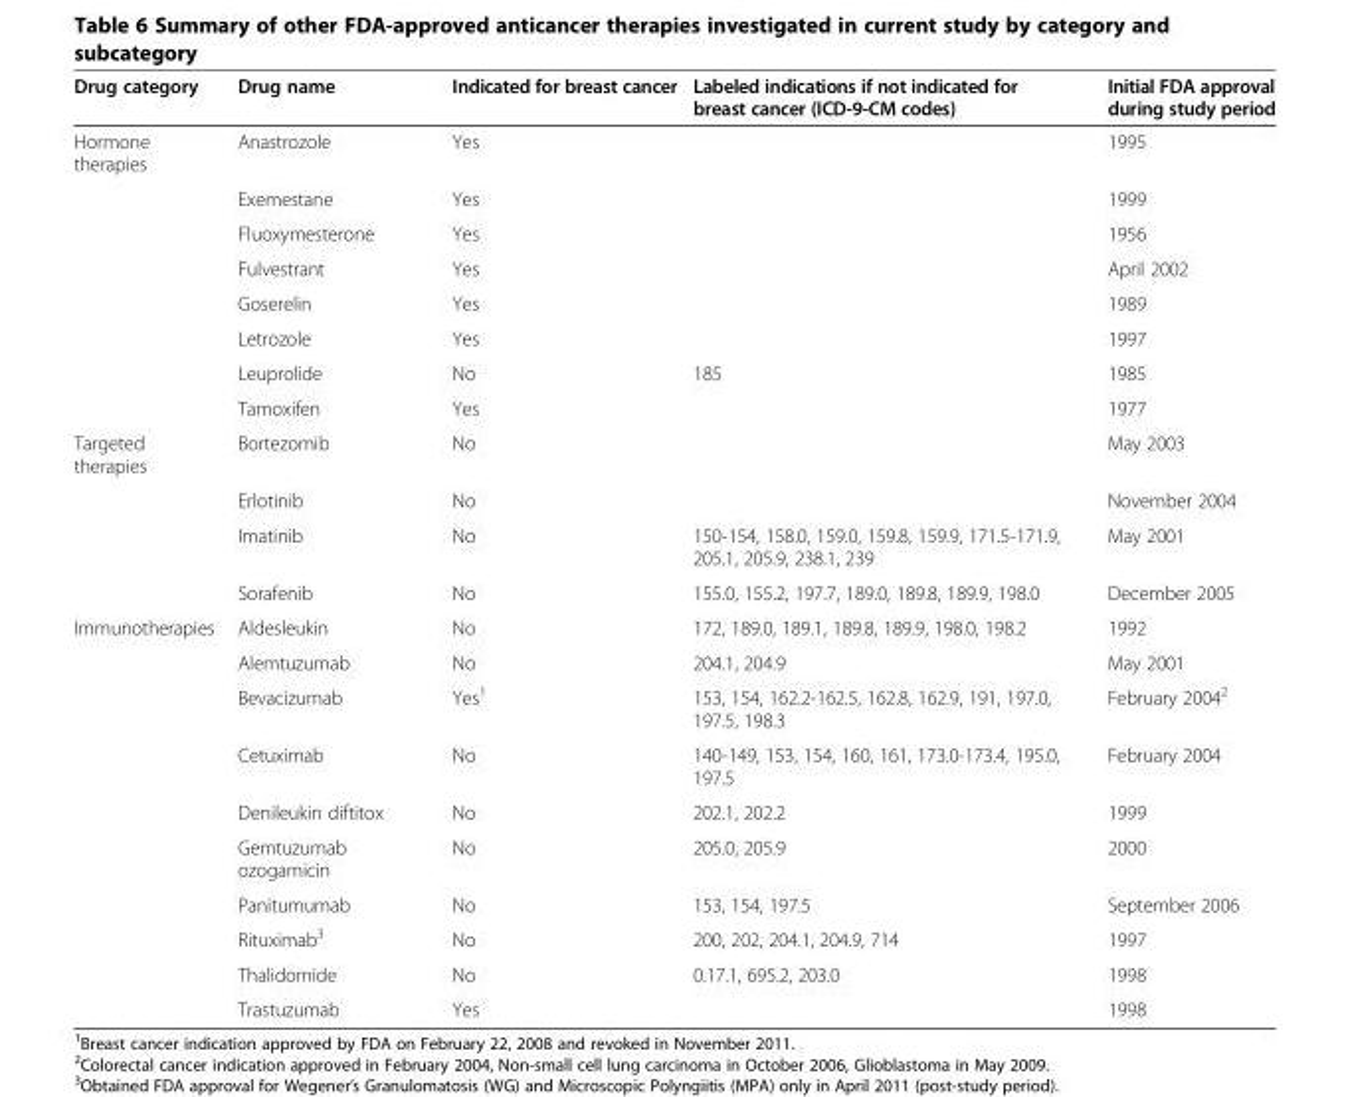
<table><thead><tr><td>Drug category</td><td>Drug name</td><td>Indicated for breast cancer</td><td>Labeled indications if not indicated for breast cancer (ICD-9-CM codes)</td><td>Initial FDA approval during study period</td></tr></thead><tbody><tr><td rowspan="8">Hormone therapies</td><td>Anastrozole</td><td>Yes</td><td></td><td>1995</td></tr><tr><td>Exemestane</td><td>Yes</td><td></td><td>1999</td></tr><tr><td>Fluoxymesterone</td><td>Yes</td><td></td><td>1956</td></tr><tr><td>Fulvestrant</td><td>Yes</td><td></td><td>April 2002</td></tr><tr><td>Goserelin</td><td>Yes</td><td></td><td>1989</td></tr><tr><td>Letrozole</td><td>Yes</td><td></td><td>1997</td></tr><tr><td>Leuprolide</td><td>No</td><td>185</td><td>1985</td></tr><tr><td>Tamoxifen</td><td>Yes</td><td></td><td>1977</td></tr><tr><td rowspan="4">Targeted therapies</td><td>Bortezomib</td><td>No</td><td></td><td>May 2003</td></tr><tr><td>Erlotinib</td><td>No</td><td></td><td>November 2004</td></tr><tr><td>Imatinib</td><td>No</td><td>150-154, 158.0, 159.0, 159.8, 159.9, 171.5-171.9, 205.1, 205.9, 238.1, 239</td><td>May 2001</td></tr><tr><td>Sorafenib</td><td>No</td><td>155.0, 155.2, 197.7, 189.0, 189.8, 189.9, 198.0</td><td>December 2005</td></tr><tr><td rowspan="10">Immunotherapies</td><td>Aldesleukin</td><td>No</td><td>172, 189.0, 189.1, 189.8, 189.9, 198.0, 198.2</td><td>1992</td></tr><tr><td>Alemtuzumab</td><td>No</td><td>204.1, 204.9</td><td>May 2001</td></tr><tr><td>Bevacizumab</td><td>Yes<sup>1</sup></td><td>153, 154, 162.2-162.5, 162.8, 162.9, 191, 197.0, 197.5, 198.3</td><td>February 2004<sup>2</sup></td></tr><tr><td>Cetuximab</td><td>No</td><td>140-149, 153, 154, 160, 161, 173.0-173.4, 195.0, 197.5</td><td>February 2004</td></tr><tr><td>Denileukin diftitox</td><td>No</td><td>202.1, 202.2</td><td>1999</td></tr><tr><td>Gemtuzumab ozogamicin</td><td>No</td><td>205.0, 205.9</td><td>2000</td></tr><tr><td>Panitumumab</td><td>No</td><td>153, 154, 197.5</td><td>September 2006</td></tr><tr><td>Rituximab<sup>3</sup></td><td>No</td><td>200, 202, 204.1, 204.9, 714</td><td>1997</td></tr><tr><td>Thalidomide</td><td>No</td><td>0.17.1, 695.2, 203.0</td><td>1998</td></tr><tr><td>Trastuzumab</td><td>Yes</td><td></td><td>1998</td></tr></tbody></table>